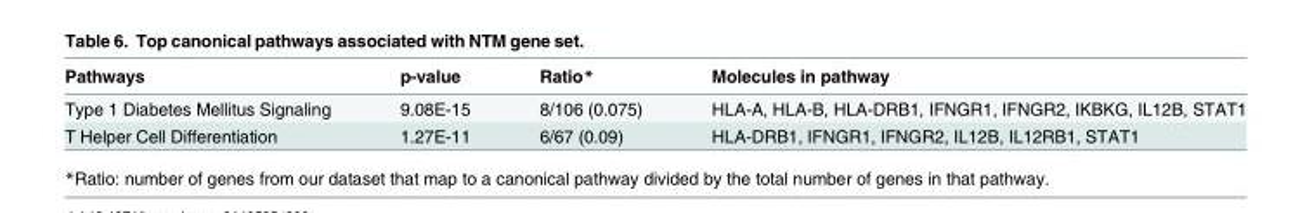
<table><thead><tr><td>Pathways</td><td>p-value</td><td>Ratio*</td><td>Molecules in pathway</td></tr></thead><tbody><tr><td>Type 1 Diabetes Mellitus Signaling</td><td>9.08E-15</td><td>8/106 (0.075)</td><td>HLA-A, HLA-B, HLA-DRB1, IFNGR1, IFNGR2, IKBKG, IL12B, STAT1</td></tr><tr><td>T Helper Cell Differentiation</td><td>1.27E-11</td><td>6/67 (0.09)</td><td>HLA-DRB1, IFNGR1, IFNGR2, IL12B, IL12RB1, STAT1</td></tr></tbody></table>